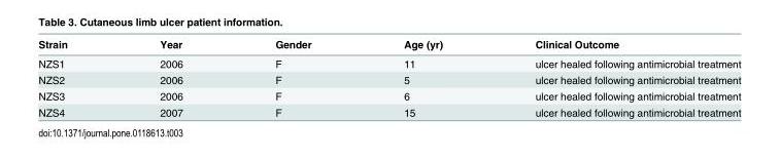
<table><thead><tr><td>Strain</td><td>Year</td><td>Gender</td><td>Age (yr)</td><td>Clinical Outcome</td></tr></thead><tbody><tr><td>NZS1</td><td>2006</td><td>F</td><td>11</td><td>ulcer healed following antimicrobial treatment</td></tr><tr><td>NZS2</td><td>2006</td><td>F</td><td>5</td><td>ulcer healed following antimicrobial treatment</td></tr><tr><td>NZS3</td><td>2006</td><td>F</td><td>6</td><td>ulcer healed following antimicrobial treatment</td></tr><tr><td>NZS4</td><td>2007</td><td>F</td><td>15</td><td>ulcer healed following antimicrobial treatment</td></tr></tbody></table>